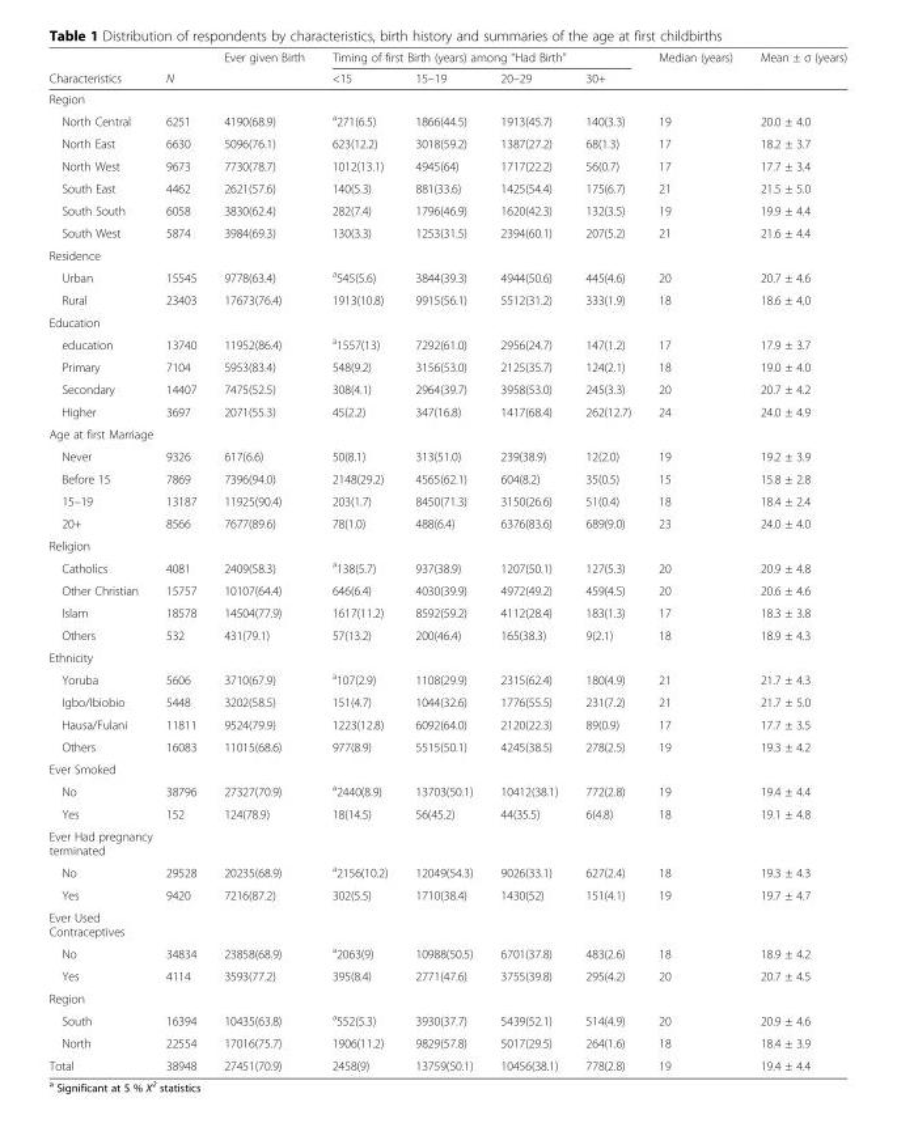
<table><thead><tr><td rowspan="2">Characteristics</td><td rowspan="2">N</td><td rowspan="2">Ever given Birth</td><td colspan="4">Timing of first Birth (years) among “Had Birth”</td><td rowspan="2">Median (years)</td><td rowspan="2">Mean ± σ (years)</td></tr><tr><td>&lt;15</td><td>15–19</td><td>20–29</td><td>30+</td></tr></thead><tbody><tr><td colspan="9">Region</td></tr><tr><td>North Central</td><td>6251</td><td>4190(68.9)</td><td><sup>a</sup>271(6.5)</td><td>1866(44.5)</td><td>1913(45.7)</td><td>140(3.3)</td><td>19</td><td>20.0 ± 4.0</td></tr><tr><td>North East</td><td>6630</td><td>5096(76.1)</td><td>623(12.2)</td><td>3018(59.2)</td><td>1387(27.2)</td><td>68(1.3)</td><td>17</td><td>18.2 ± 3.7</td></tr><tr><td>North West</td><td>9673</td><td>7730(78.7)</td><td>1012(13.1)</td><td>4945(64)</td><td>1717(22.2)</td><td>56(0.7)</td><td>17</td><td>17.7 ± 3.4</td></tr><tr><td>South East</td><td>4462</td><td>2621(57.6)</td><td>140(5.3)</td><td>881(33.6)</td><td>1425(54.4)</td><td>175(6.7)</td><td>21</td><td>21.5 ± 5.0</td></tr><tr><td>South South</td><td>6058</td><td>3830(62.4)</td><td>282(7.4)</td><td>1796(46.9)</td><td>1620(42.3)</td><td>132(3.5)</td><td>19</td><td>19.9 ± 4.4</td></tr><tr><td>South West</td><td>5874</td><td>3984(69.3)</td><td>130(3.3)</td><td>1253(31.5)</td><td>2394(60.1)</td><td>207(5.2)</td><td>21</td><td>21.6 ± 4.4</td></tr><tr><td colspan="9">Residence</td></tr><tr><td>Urban</td><td>15545</td><td>9778(63.4)</td><td><sup>a</sup>545(5.6)</td><td>3844(39.3)</td><td>4944(50.6)</td><td>445(4.6)</td><td>20</td><td>20.7 ± 4.6</td></tr><tr><td>Rural</td><td>23403</td><td>17673(76.4)</td><td>1913(10.8)</td><td>9915(56.1)</td><td>5512(31.2)</td><td>333(1.9)</td><td>18</td><td>18.6 ± 4.0</td></tr><tr><td colspan="9">Education</td></tr><tr><td>education</td><td>13740</td><td>11952(86.4)</td><td><sup>a</sup>1557(13)</td><td>7292(61.0)</td><td>2956(24.7)</td><td>147(1.2)</td><td>17</td><td>17.9 ± 3.7</td></tr><tr><td>Primary</td><td>7104</td><td>5953(83.4)</td><td>548(9.2)</td><td>3156(53.0)</td><td>2125(35.7)</td><td>124(2.1)</td><td>18</td><td>19.0 ± 4.0</td></tr><tr><td>Secondary</td><td>14407</td><td>7475(52.5)</td><td>308(4.1)</td><td>2964(39.7)</td><td>3958(53.0)</td><td>245(3.3)</td><td>20</td><td>20.7 ± 4.2</td></tr><tr><td>Higher</td><td>3697</td><td>2071(55.3)</td><td>45(2.2)</td><td>347(16.8)</td><td>1417(68.4)</td><td>262(12.7)</td><td>24</td><td>24.0 ± 4.9</td></tr><tr><td colspan="9">Age at first Marriage</td></tr><tr><td>Never</td><td>9326</td><td>617(6.6)</td><td>50(8.1)</td><td>313(51.0)</td><td>239(38.9)</td><td>12(2.0)</td><td>19</td><td>19.2 ± 3.9</td></tr><tr><td>Before 15</td><td>7869</td><td>7396(94.0)</td><td>2148(29.2)</td><td>4565(62.1)</td><td>604(8.2)</td><td>35(0.5)</td><td>15</td><td>15.8 ± 2.8</td></tr><tr><td>15–19</td><td>13187</td><td>11925(90.4)</td><td>203(1.7)</td><td>8450(71.3)</td><td>3150(26.6)</td><td>51(0.4)</td><td>18</td><td>18.4 ± 2.4</td></tr><tr><td>20+</td><td>8566</td><td>7677(89.6)</td><td>78(1.0)</td><td>488(6.4)</td><td>6376(83.6)</td><td>689(9.0)</td><td>23</td><td>24.0 ± 4.0</td></tr><tr><td colspan="9">Religion</td></tr><tr><td>Catholics</td><td>4081</td><td>2409(58.3)</td><td><sup>a</sup>138(5.7)</td><td>937(38.9)</td><td>1207(50.1)</td><td>127(5.3)</td><td>20</td><td>20.9 ± 4.8</td></tr><tr><td>Other Christian</td><td>15757</td><td>10107(64.4)</td><td>646(6.4)</td><td>4030(39.9)</td><td>4972(49.2)</td><td>459(4.5)</td><td>20</td><td>20.6 ± 4.6</td></tr><tr><td>Islam</td><td>18578</td><td>14504(77.9)</td><td>1617(11.2)</td><td>8592(59.2)</td><td>4112(28.4)</td><td>183(1.3)</td><td>17</td><td>18.3 ± 3.8</td></tr><tr><td>Others</td><td>532</td><td>431(79.1)</td><td>57(13.2)</td><td>200(46.4)</td><td>165(38.3)</td><td>9(2.1)</td><td>18</td><td>18.9 ± 4.3</td></tr><tr><td colspan="9">Ethnicity</td></tr><tr><td>Yoruba</td><td>5606</td><td>3710(67.9)</td><td><sup>a</sup>107(2.9)</td><td>1108(29.9)</td><td>2315(62.4)</td><td>180(4.9)</td><td>21</td><td>21.7 ± 4.3</td></tr><tr><td>Igbo/Ibiobio</td><td>5448</td><td>3202(58.5)</td><td>151(4.7)</td><td>1044(32.6)</td><td>1776(55.5)</td><td>231(7.2)</td><td>21</td><td>21.7 ± 5.0</td></tr><tr><td>Hausa/Fulani</td><td>11811</td><td>9524(79.9)</td><td>1223(12.8)</td><td>6092(64.0)</td><td>2120(22.3)</td><td>89(0.9)</td><td>17</td><td>17.7 ± 3.5</td></tr><tr><td>Others</td><td>16083</td><td>11015(68.6)</td><td>977(8.9)</td><td>5515(50.1)</td><td>4245(38.5)</td><td>278(2.5)</td><td>19</td><td>19.3 ± 4.2</td></tr><tr><td colspan="9">Ever Smoked</td></tr><tr><td>No</td><td>38796</td><td>27327(70.9)</td><td><sup>a</sup>2440(8.9)</td><td>13703(50.1)</td><td>10412(38.1)</td><td>772(2.8)</td><td>19</td><td>19.4 ± 4.4</td></tr><tr><td>Yes</td><td>152</td><td>124(78.9)</td><td>18(14.5)</td><td>56(45.2)</td><td>44(35.5)</td><td>6(4.8)</td><td>18</td><td>19.1 ± 4.8</td></tr><tr><td colspan="9">Ever Had pregnancy terminated</td></tr><tr><td>No</td><td>29528</td><td>20235(68.9)</td><td><sup>a</sup>2156(10.2)</td><td>12049(54.3)</td><td>9026(33.1)</td><td>627(2.4)</td><td>18</td><td>19.3 ± 4.3</td></tr><tr><td>Yes</td><td>9420</td><td>7216(87.2)</td><td>302(5.5)</td><td>1710(38.4)</td><td>1430(52)</td><td>151(4.1)</td><td>19</td><td>19.7 ± 4.7</td></tr><tr><td colspan="9">Ever Used Contraceptives</td></tr><tr><td>No</td><td>34834</td><td>23858(68.9)</td><td><sup>a</sup>2063(9)</td><td>10988(50.5)</td><td>6701(37.8)</td><td>483(2.6)</td><td>18</td><td>18.9 ± 4.2</td></tr><tr><td>Yes</td><td>4114</td><td>3593(77.2)</td><td>395(8.4)</td><td>2771(47.6)</td><td>3755(39.8)</td><td>295(4.2)</td><td>20</td><td>20.7 ± 4.5</td></tr><tr><td colspan="9">Region</td></tr><tr><td>South</td><td>16394</td><td>10435(63.8)</td><td><sup>a</sup>552(5.3)</td><td>3930(37.7)</td><td>5439(52.1)</td><td>514(4.9)</td><td>20</td><td>20.9 ± 4.6</td></tr><tr><td>North</td><td>22554</td><td>17016(75.7)</td><td>1906(11.2)</td><td>9829(57.8)</td><td>5017(29.5)</td><td>264(1.6)</td><td>18</td><td>18.4 ± 3.9</td></tr><tr><td>Total</td><td>38948</td><td>27451(70.9)</td><td>2458(9)</td><td>13759(50.1)</td><td>10456(38.1)</td><td>778(2.8)</td><td>19</td><td>19.4 ± 4.4</td></tr></tbody></table>